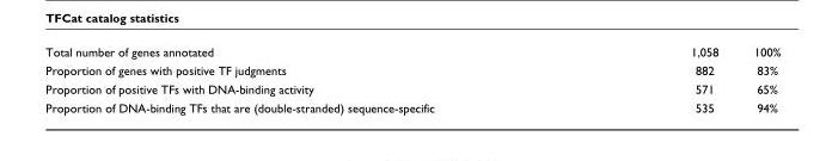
<table><tbody><tr><td>Total number of genes annotated</td><td>1,058</td><td>100%</td></tr><tr><td>Proportion of genes with positive TF judgments</td><td>882</td><td>83%</td></tr><tr><td>Proportion of positive TFs with DNA-binding activity</td><td>571</td><td>65%</td></tr><tr><td>Proportion of DNA-binding TFs that are (double-stranded) sequence-specific</td><td>535</td><td>94%</td></tr></tbody></table>